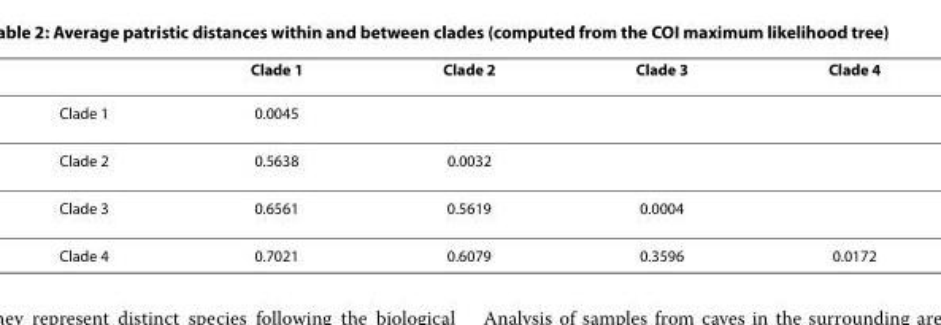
<table><thead><tr><td></td><td>Clade 1</td><td>Clade 2</td><td>Clade 3</td><td>Clade 4</td></tr></thead><tbody><tr><td>Clade 1</td><td>0.0045</td><td></td><td></td><td></td></tr><tr><td>Clade 2</td><td>0.5638</td><td>0.0032</td><td></td><td></td></tr><tr><td>Clade 3</td><td>0.6561</td><td>0.5619</td><td>0.0004</td><td></td></tr><tr><td>Clade 4</td><td>0.7021</td><td>0.6079</td><td>0.3596</td><td>0.0172</td></tr></tbody></table>